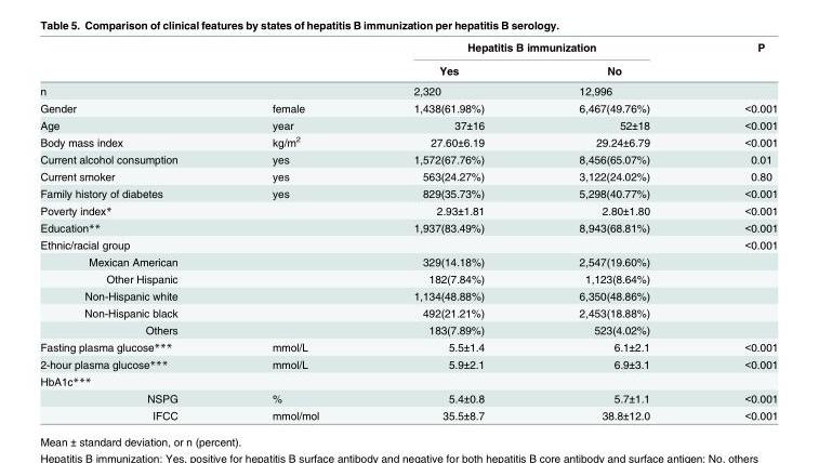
<table><thead><tr><td rowspan="2"></td><td rowspan="2"></td><td colspan="2">Hepatitis B immunization</td><td rowspan="2">P</td></tr><tr><td>Yes</td><td>No</td></tr></thead><tbody><tr><td>n</td><td></td><td>2,320</td><td>12,996</td><td></td></tr><tr><td>Gender</td><td>female</td><td>1,438(61.98%)</td><td>6,467(49.76%)</td><td>&lt;0.001</td></tr><tr><td>Age</td><td>year</td><td>37±16</td><td>52±18</td><td>&lt;0.001</td></tr><tr><td>Body mass index</td><td>kg/m<sup>2</sup></td><td>27.60±6.19</td><td>29.24±6.79</td><td>&lt;0.001</td></tr><tr><td>Current alcohol consumption</td><td>yes</td><td>1,572(67.76%)</td><td>8,456(65.07%)</td><td>0.01</td></tr><tr><td>Current smoker</td><td>yes</td><td>563(24.27%)</td><td>3,122(24.02%)</td><td>0.80</td></tr><tr><td>Family history of diabetes</td><td>yes</td><td>829(35.73%)</td><td>5,298(40.77%)</td><td>&lt;0.001</td></tr><tr><td>Poverty index*</td><td></td><td>2.93±1.81</td><td>2.80±1.80</td><td>&lt;0.001</td></tr><tr><td>Education**</td><td></td><td>1,937(83.49%)</td><td>8,943(68.81%)</td><td>&lt;0.001</td></tr><tr><td>Ethnic/racial group</td><td></td><td></td><td></td><td>&lt;0.001</td></tr><tr><td>Mexican American</td><td></td><td>329(14.18%)</td><td>2,547(19.60%)</td><td></td></tr><tr><td>Other Hispanic</td><td></td><td>182(7.84%)</td><td>1,123(8.64%)</td><td></td></tr><tr><td>Non-Hispanic white</td><td></td><td>1,134(48.88%)</td><td>6,350(48.86%)</td><td></td></tr><tr><td>Non-Hispanic black</td><td></td><td>492(21.21%)</td><td>2,453(18.88%)</td><td></td></tr><tr><td>Others</td><td></td><td>183(7.89%)</td><td>523(4.02%)</td><td></td></tr><tr><td>Fasting plasma glucose***</td><td>mmol/L</td><td>5.5±1.4</td><td>6.1±2.1</td><td>&lt;0.001</td></tr><tr><td>2-hour plasma glucose***</td><td>mmol/L</td><td>5.9±2.1</td><td>6.9±3.1</td><td>&lt;0.001</td></tr><tr><td colspan="5">HbA1c***</td></tr><tr><td>NSPG</td><td>%</td><td>5.4±0.8</td><td>5.7±1.1</td><td>&lt;0.001</td></tr><tr><td>IFCC</td><td>mmol/mol</td><td>35.5±8.7</td><td>38.8±12.0</td><td>&lt;0.001</td></tr></tbody></table>